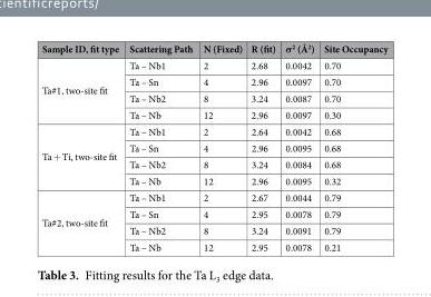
<table><thead><tr><td>Sample ID, fit type</td><td>Scattering Path</td><td>N (Fixed)</td><td>R (fit)</td><td>σ<sup>2</sup> (Å<sup>2</sup>)</td><td>Site Occupancy</td></tr></thead><tbody><tr><td rowspan="4">Ta#1, two-site fit</td><td>Ta – Nb1</td><td>2</td><td>2.68</td><td>0.0042</td><td>0.70</td></tr><tr><td>Ta – Sn</td><td>4</td><td>2.96</td><td>0.0097</td><td>0.70</td></tr><tr><td>Ta – Nb2</td><td>8</td><td>3.24</td><td>0.0087</td><td>0.70</td></tr><tr><td>Ta – Nb</td><td>12</td><td>2.96</td><td>0.0097</td><td>0.30</td></tr><tr><td rowspan="4">Ta + Ti, two-site fit</td><td>Ta – Nb1</td><td>2</td><td>2.64</td><td>0.0042</td><td>0.68</td></tr><tr><td>Ta – Sn</td><td>4</td><td>2.96</td><td>0.0095</td><td>0.68</td></tr><tr><td>Ta – Nb2</td><td>8</td><td>3.24</td><td>0.0084</td><td>0.68</td></tr><tr><td>Ta – Nb</td><td>12</td><td>2.96</td><td>0.0095</td><td>0.32</td></tr><tr><td rowspan="4">Ta#2, two-site fit</td><td>Ta – Nb1</td><td>2</td><td>2.67</td><td>0.0044</td><td>0.79</td></tr><tr><td>Ta – Sn</td><td>4</td><td>2.95</td><td>0.0078</td><td>0.79</td></tr><tr><td>Ta – Nb2</td><td>8</td><td>3.24</td><td>0.0091</td><td>0.79</td></tr><tr><td>Ta – Nb</td><td>12</td><td>2.95</td><td>0.0078</td><td>0.21</td></tr></tbody></table>